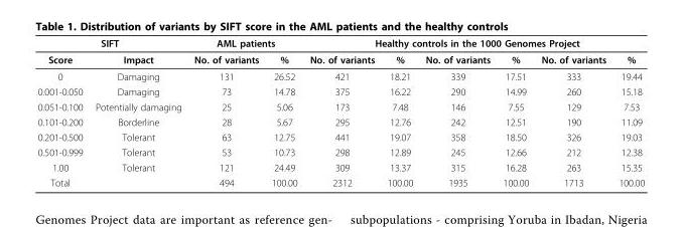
<table><thead><tr><td colspan="2">SIFT</td><td colspan="2">AML patients</td><td colspan="6">Healthy controls in the 1000 Genomes Project</td></tr><tr><td>Score</td><td>Impact</td><td>No. of variants</td><td>%</td><td>No. of variants</td><td>%</td><td>No. of variants</td><td>%</td><td>No. of variants</td><td>%</td></tr></thead><tbody><tr><td>0</td><td>Damaging</td><td>131</td><td>26.52</td><td>421</td><td>18.21</td><td>339</td><td>17.51</td><td>333</td><td>19.44</td></tr><tr><td>0.001-0.050</td><td>Damaging</td><td>73</td><td>14.78</td><td>375</td><td>16.22</td><td>290</td><td>14.99</td><td>260</td><td>15.18</td></tr><tr><td>0.051-0.100</td><td>Potentially damaging</td><td>25</td><td>5.06</td><td>173</td><td>7.48</td><td>146</td><td>7.55</td><td>129</td><td>7.53</td></tr><tr><td>0.101-0.200</td><td>Borderline</td><td>28</td><td>5.67</td><td>295</td><td>12.76</td><td>242</td><td>12.51</td><td>190</td><td>11.09</td></tr><tr><td>0.201-0.500</td><td>Tolerant</td><td>63</td><td>12.75</td><td>441</td><td>19.07</td><td>358</td><td>18.50</td><td>326</td><td>19.03</td></tr><tr><td>0.501-0.999</td><td>Tolerant</td><td>53</td><td>10.73</td><td>298</td><td>12.89</td><td>245</td><td>12.66</td><td>212</td><td>12.38</td></tr><tr><td>1.00</td><td>Tolerant</td><td>121</td><td>24.49</td><td>309</td><td>13.37</td><td>315</td><td>16.28</td><td>263</td><td>15.35</td></tr><tr><td>Total</td><td></td><td>494</td><td>100.00</td><td>2312</td><td>100.00</td><td>1935</td><td>100.00</td><td>1713</td><td>100.00</td></tr></tbody></table>